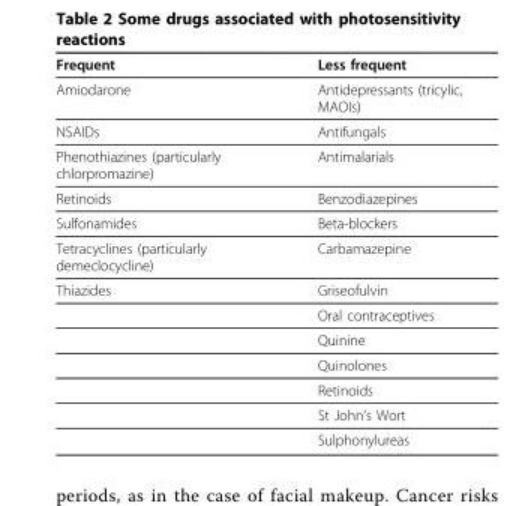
<table><thead><tr><td>Frequent</td><td>Less frequent</td></tr></thead><tbody><tr><td>Amiodarone</td><td>Antidepressants (tricylic, MAOIs)</td></tr><tr><td>NSAIDs</td><td>Antifungals</td></tr><tr><td>Phenothiazines (particularly chlorpromazine)</td><td>Antimalarials</td></tr><tr><td>Retinoids</td><td>Benzodiazepines</td></tr><tr><td>Sulfonamides</td><td>Beta-blockers</td></tr><tr><td>Tetracyclines (particularly demeclocycline)</td><td>Carbamazepine</td></tr><tr><td rowspan="7">Thiazides</td><td>Griseofulvin</td></tr><tr><td>Oral contraceptives</td></tr><tr><td>Quinine</td></tr><tr><td>Quinolones</td></tr><tr><td>Retinoids</td></tr><tr><td>St John’s Wort</td></tr><tr><td>Sulphonylureas</td></tr></tbody></table>